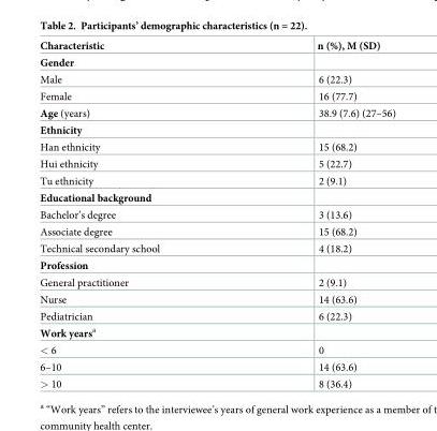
<table><thead><tr><td>Characteristic</td><td>n (%), M (SD)</td></tr></thead><tbody><tr><td colspan="2">Gender</td></tr><tr><td>Male</td><td>6 (22.3)</td></tr><tr><td>Female</td><td>16 (77.7)</td></tr><tr><td>Age (years)</td><td>38.9 (7.6) (27–56)</td></tr><tr><td colspan="2">Ethnicity</td></tr><tr><td>Han ethnicity</td><td>15 (68.2)</td></tr><tr><td>Hui ethnicity</td><td>5 (22.7)</td></tr><tr><td>Tu ethnicity</td><td>2 (9.1)</td></tr><tr><td colspan="2">Educational background</td></tr><tr><td>Bachelor’s degree</td><td>3 (13.6)</td></tr><tr><td>Associate degree</td><td>15 (68.2)</td></tr><tr><td>Technical secondary school</td><td>4 (18.2)</td></tr><tr><td colspan="2">Profession</td></tr><tr><td>General practitioner</td><td>2 (9.1)</td></tr><tr><td>Nurse</td><td>14 (63.6)</td></tr><tr><td>Pediatrician</td><td>6 (22.3)</td></tr><tr><td colspan="2">Work years<sup>a</sup></td></tr><tr><td>&lt; 6</td><td>0</td></tr><tr><td>6–10</td><td>14 (63.6)</td></tr><tr><td>&gt; 10</td><td>8 (36.4)</td></tr></tbody></table>